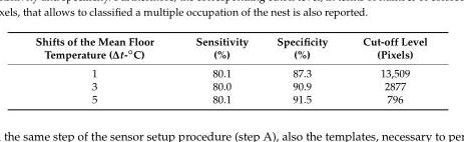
<table><thead><tr><td>Shifts of the Mean Floor Temperature (∆t-◦C)</td><td>Sensitivity (%)</td><td>Specificity (%)</td><td>Cut-off Level (Pixels)</td></tr></thead><tbody><tr><td>1</td><td>80.1</td><td>87.3</td><td>13,509</td></tr><tr><td>3</td><td>80.0</td><td>90.9</td><td>2877</td></tr><tr><td>5</td><td>80.1</td><td>91.5</td><td>796</td></tr></tbody></table>